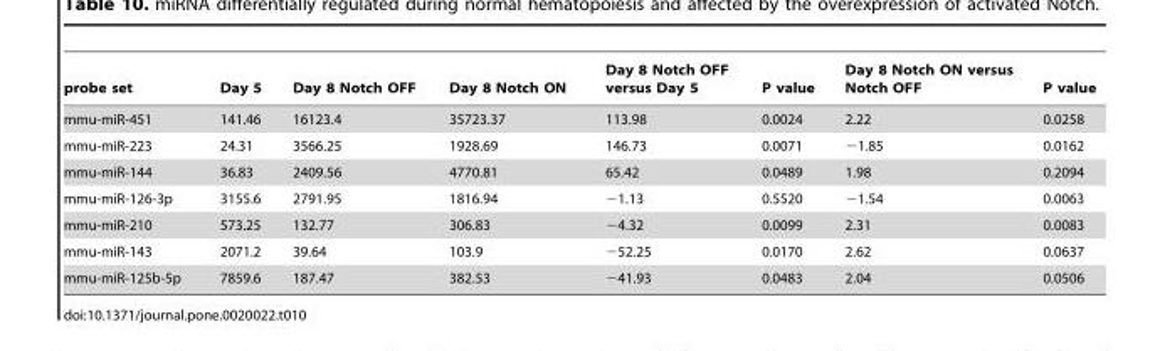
<table><thead><tr><td>probe set</td><td>Day 5</td><td>Day 8 Notch OFF</td><td>Day 8 Notch ON</td><td>Day 8 Notch OFF versus Day 5</td><td>P value</td><td>Day 8 Notch ON versus Notch OFF</td><td>P value</td></tr></thead><tbody><tr><td>mmu-miR-451</td><td>141.46</td><td>16123.4</td><td>35723.37</td><td>113.98</td><td>0.0024</td><td>2.22</td><td>0.0258</td></tr><tr><td>mmu-miR-223</td><td>24.31</td><td>3566.25</td><td>1928.69</td><td>146.73</td><td>0.0071</td><td>−1.85</td><td>0.0162</td></tr><tr><td>mmu-miR-144</td><td>36.83</td><td>2409.56</td><td>4770.81</td><td>65.42</td><td>0.0489</td><td>1.98</td><td>0.2094</td></tr><tr><td>mmu-miR-126-3p</td><td>3155.6</td><td>2791.95</td><td>1816.94</td><td>−1.13</td><td>0.5520</td><td>−1.54</td><td>0.0063</td></tr><tr><td>mmu-miR-210</td><td>573.25</td><td>132.77</td><td>306.83</td><td>−4.32</td><td>0.0099</td><td>2.31</td><td>0.0083</td></tr><tr><td>mmu-miR-143</td><td>2071.2</td><td>39.64</td><td>103.9</td><td>−52.25</td><td>0.0170</td><td>2.62</td><td>0.0637</td></tr><tr><td>mmu-miR-125b-5p</td><td>7859.6</td><td>187.47</td><td>382.53</td><td>−41.93</td><td>0.0483</td><td>2.04</td><td>0.0506</td></tr></tbody></table>